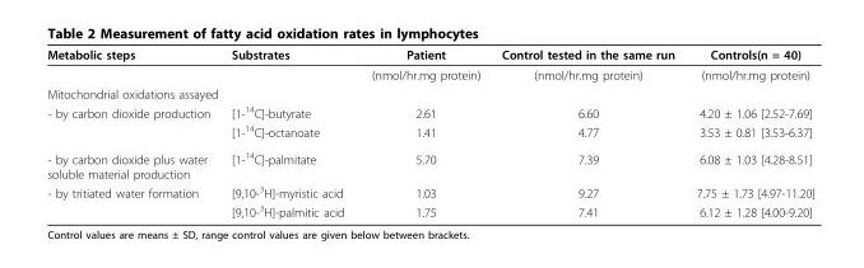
<table><thead><tr><td>Metabolic steps</td><td>Substrates</td><td>Patient</td><td>Control tested in the same run</td><td>Controls(n = 40)</td></tr></thead><tbody><tr><td></td><td></td><td>(nmol/hr.mg protein)</td><td>(nmol/hr.mg protein)</td><td>(nmol/hr.mg protein)</td></tr><tr><td colspan="5">Mitochondrial oxidations assayed</td></tr><tr><td rowspan="2">- by carbon dioxide production</td><td>[1-<sup>14</sup>C]-butyrate</td><td>2.61</td><td>6.60</td><td>4.20 ± 1.06 [2.52-7.69]</td></tr><tr><td>[1-<sup>14</sup>C]-octanoate</td><td>1.41</td><td>4.77</td><td>3.53 ± 0.81 [3.53-6.37]</td></tr><tr><td>- by carbon dioxide plus water soluble material production</td><td>[1-<sup>14</sup>C]-palmitate</td><td>5.70</td><td>7.39</td><td>6.08 ± 1.03 [4.28-8.51]</td></tr><tr><td rowspan="2">- by tritiated water formation</td><td>[9,10-<sup>3</sup>H]-myristic acid</td><td>1.03</td><td>9.27</td><td>7.75 ± 1.73 [4.97-11.20]</td></tr><tr><td>[9,10-<sup>3</sup>H]-palmitic acid</td><td>1.75</td><td>7.41</td><td>6.12 ± 1.28 [4.00-9.20]</td></tr></tbody></table>